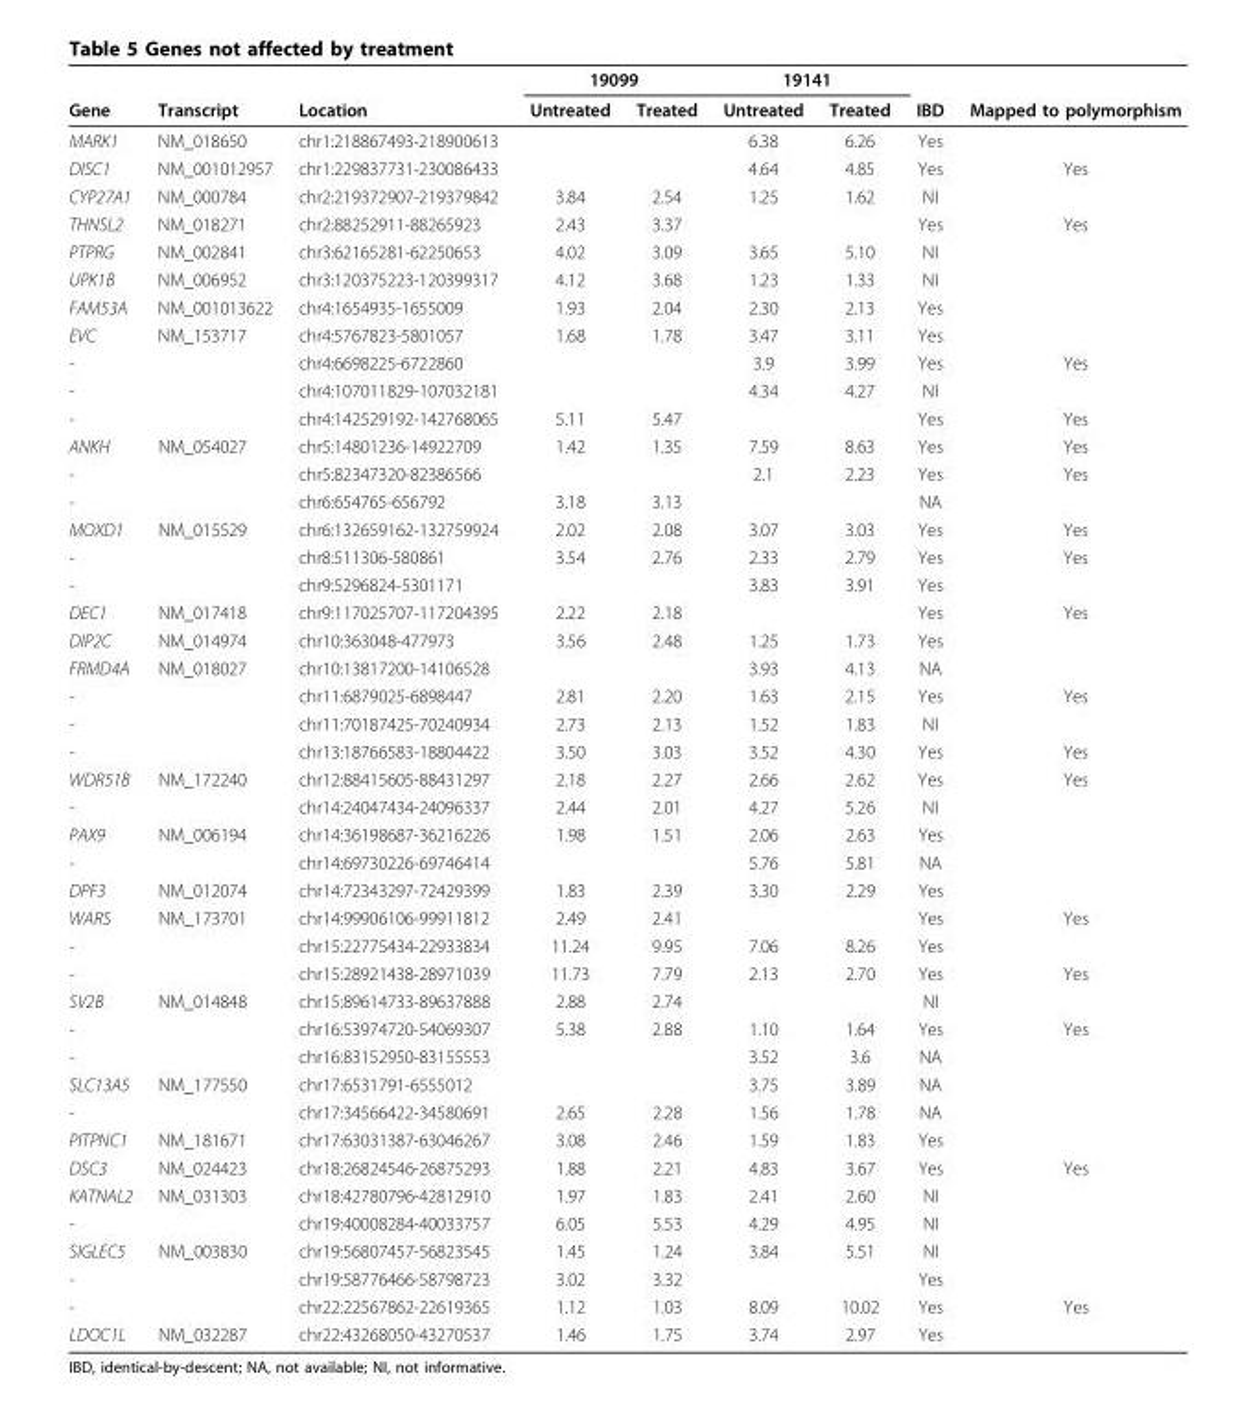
<table><thead><tr><td rowspan="2">Gene</td><td rowspan="2">Transcript</td><td rowspan="2">Location</td><td colspan="2">19099</td><td colspan="2">19141</td><td rowspan="2">IBD</td><td rowspan="2">Mapped to polymorphism</td></tr><tr><td>Untreated</td><td>Treated</td><td>Untreated</td><td>Treated</td></tr></thead><tbody><tr><td>MARK1</td><td>NM_018650</td><td>chr1:218867493-218900613</td><td></td><td></td><td>6.38</td><td>6.26</td><td>Yes</td><td></td></tr><tr><td>DISC1</td><td>NM_001012957</td><td>chr1:229837731-230086433</td><td></td><td></td><td>4.64</td><td>4.85</td><td>Yes</td><td>Yes</td></tr><tr><td>CYP27A1</td><td>NM_000784</td><td>chr2:219372907-219379842</td><td>3.84</td><td>2.54</td><td>1.25</td><td>1.62</td><td>NI</td><td></td></tr><tr><td>THNSL2</td><td>NM_018271</td><td>chr2:88252911-88265923</td><td>2.43</td><td>3.37</td><td></td><td></td><td>Yes</td><td>Yes</td></tr><tr><td>PTPRG</td><td>NM_002841</td><td>chr3:62165281-62250653</td><td>4.02</td><td>3.09</td><td>3.65</td><td>5.10</td><td>NI</td><td></td></tr><tr><td>UPK1B</td><td>NM_006952</td><td>chr3:120375223-120399317</td><td>4.12</td><td>3.68</td><td>1.23</td><td>1.33</td><td>NI</td><td></td></tr><tr><td>FAM53A</td><td>NM_001013622</td><td>chr4:1654935-1655009</td><td>1.93</td><td>2.04</td><td>2.30</td><td>2.13</td><td>Yes</td><td></td></tr><tr><td>EVC</td><td>NM_153717</td><td>chr4:5767823-5801057</td><td>1.68</td><td>1.78</td><td>3.47</td><td>3.11</td><td>Yes</td><td></td></tr><tr><td>-</td><td></td><td>chr4:6698225-6722860</td><td></td><td></td><td>3.9</td><td>3.99</td><td>Yes</td><td>Yes</td></tr><tr><td>-</td><td></td><td>chr4:107011829-107032181</td><td></td><td></td><td>4.34</td><td>4.27</td><td>NI</td><td></td></tr><tr><td>-</td><td></td><td>chr4:142529192-142768065</td><td>5.11</td><td>5.47</td><td></td><td></td><td>Yes</td><td>Yes</td></tr><tr><td>ANKH</td><td>NM_054027</td><td>chr5:14801236-14922709</td><td>1.42</td><td>1.35</td><td>7.59</td><td>8.63</td><td>Yes</td><td>Yes</td></tr><tr><td>-</td><td></td><td>chr5:82347320-82386566</td><td></td><td></td><td>2.1</td><td>2.23</td><td>Yes</td><td>Yes</td></tr><tr><td>-</td><td></td><td>chr6:654765-656792</td><td>3.18</td><td>3.13</td><td></td><td></td><td>NA</td><td></td></tr><tr><td>MOXD1</td><td>NM_015529</td><td>chr6:132659162-132759924</td><td>2.02</td><td>2.08</td><td>3.07</td><td>3.03</td><td>Yes</td><td>Yes</td></tr><tr><td>-</td><td></td><td>chr8:511306-580861</td><td>3.54</td><td>2.76</td><td>2.33</td><td>2.79</td><td>Yes</td><td>Yes</td></tr><tr><td>-</td><td></td><td>chr9:5296824-5301171</td><td></td><td></td><td>3.83</td><td>3.91</td><td>Yes</td><td></td></tr><tr><td>DEC1</td><td>NM_017418</td><td>chr9:117025707-117204395</td><td>2.22</td><td>2.18</td><td></td><td></td><td>Yes</td><td>Yes</td></tr><tr><td>DIP2C</td><td>NM_014974</td><td>chr10:363048-477973</td><td>3.56</td><td>2.48</td><td>1.25</td><td>1.73</td><td>Yes</td><td></td></tr><tr><td>FRMD4A</td><td>NM_018027</td><td>chr10:13817200-14106528</td><td></td><td></td><td>3.93</td><td>4.13</td><td>NA</td><td></td></tr><tr><td>-</td><td></td><td>chr11:6879025-6898447</td><td>2.81</td><td>2.20</td><td>1.63</td><td>2.15</td><td>Yes</td><td>Yes</td></tr><tr><td>-</td><td></td><td>chr11:70187425-70240934</td><td>2.73</td><td>2.13</td><td>1.52</td><td>1.83</td><td>NI</td><td></td></tr><tr><td>-</td><td></td><td>chr13:18766583-18804422</td><td>3.50</td><td>3.03</td><td>3.52</td><td>4.30</td><td>Yes</td><td>Yes</td></tr><tr><td>WDR51B</td><td>NM_172240</td><td>chr12:88415605-88431297</td><td>2.18</td><td>2.27</td><td>2.66</td><td>2.62</td><td>Yes</td><td>Yes</td></tr><tr><td>-</td><td></td><td>chr14:24047434-24096337</td><td>2.44</td><td>2.01</td><td>4.27</td><td>5.26</td><td>NI</td><td></td></tr><tr><td>PAX9</td><td>NM_006194</td><td>chr14:36198687-36216226</td><td>1.98</td><td>1.51</td><td>2.06</td><td>2.63</td><td>Yes</td><td></td></tr><tr><td>-</td><td></td><td>chr14:69730226-69746414</td><td></td><td></td><td>5.76</td><td>5.81</td><td>NA</td><td></td></tr><tr><td>DPF3</td><td>NM_012074</td><td>chr14:72343297-72429399</td><td>1.83</td><td>2.39</td><td>3.30</td><td>2.29</td><td>Yes</td><td></td></tr><tr><td>WARS</td><td>NM_173701</td><td>chr14:99906106-99911812</td><td>2.49</td><td>2.41</td><td></td><td></td><td>Yes</td><td>Yes</td></tr><tr><td>-</td><td></td><td>chr15:22775434-22933834</td><td>11.24</td><td>9.95</td><td>7.06</td><td>8.26</td><td>Yes</td><td></td></tr><tr><td>-</td><td></td><td>chr15:28921438-28971039</td><td>11.73</td><td>7.79</td><td>2.13</td><td>2.70</td><td>Yes</td><td>Yes</td></tr><tr><td>SV2B</td><td>NM_014848</td><td>chr15:89614733-89637888</td><td>2.88</td><td>2.74</td><td></td><td></td><td>NI</td><td></td></tr><tr><td>-</td><td></td><td>chr16:53974720-54069307</td><td>5.38</td><td>2.88</td><td>1.10</td><td>1.64</td><td>Yes</td><td>Yes</td></tr><tr><td>-</td><td></td><td>chr16:83152950-83155553</td><td></td><td></td><td>3.52</td><td>3.6</td><td>NA</td><td></td></tr><tr><td>SLC13A5</td><td>NM_177550</td><td>chr17:6531791-6555012</td><td></td><td></td><td>3.75</td><td>3.89</td><td>NA</td><td></td></tr><tr><td>-</td><td></td><td>chr17:34566422-34580691</td><td>2.65</td><td>2.28</td><td>1.56</td><td>1.78</td><td>NA</td><td></td></tr><tr><td>PITPNC1</td><td>NM_181671</td><td>chr17:63031387-63046267</td><td>3.08</td><td>2.46</td><td>1.59</td><td>1.83</td><td>Yes</td><td></td></tr><tr><td>DSC3</td><td>NM_024423</td><td>chr18:26824546-26875293</td><td>1.88</td><td>2.21</td><td>4.83</td><td>3.67</td><td>Yes</td><td>Yes</td></tr><tr><td>KATNAL2</td><td>NM_031303</td><td>chr18:42780796-42812910</td><td>1.97</td><td>1.83</td><td>2.41</td><td>2.60</td><td>NI</td><td></td></tr><tr><td>-</td><td></td><td>chr19:40008284-40033757</td><td>6.05</td><td>5.53</td><td>4.29</td><td>4.95</td><td>NI</td><td></td></tr><tr><td>SIGLEC5</td><td>NM_003830</td><td>chr19:56807457-56823545</td><td>1.45</td><td>1.24</td><td>3.84</td><td>5.51</td><td>NI</td><td></td></tr><tr><td>-</td><td></td><td>chr19:58776466-58798723</td><td>3.02</td><td>3.32</td><td></td><td></td><td>Yes</td><td></td></tr><tr><td>-</td><td></td><td>chr22:22567862-22619365</td><td>1.12</td><td>1.03</td><td>8.09</td><td>10.02</td><td>Yes</td><td>Yes</td></tr><tr><td>LDOC1L</td><td>NM_032287</td><td>chr22:43268050-43270537</td><td>1.46</td><td>1.75</td><td>3.74</td><td>2.97</td><td>Yes</td><td></td></tr></tbody></table>